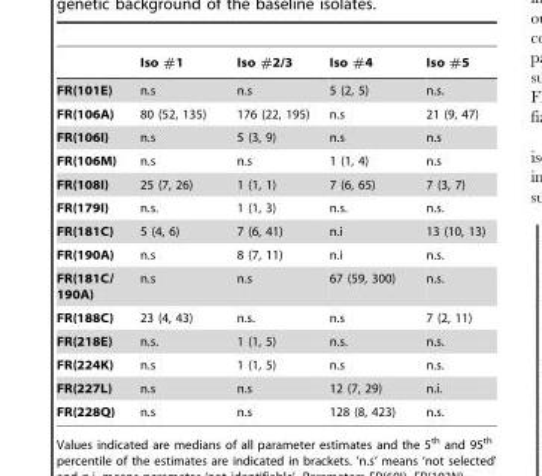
<table><thead><tr><td></td><td>Iso #1</td><td>Iso #2/3</td><td>Iso #4</td><td>Iso #5</td></tr></thead><tbody><tr><td>FR(101E)</td><td>n.s</td><td>n.s</td><td>5 (2, 5)</td><td>n.s.</td></tr><tr><td>FR(106A)</td><td>80 (52, 135)</td><td>176 (22, 195)</td><td>n.s</td><td>21 (9, 47)</td></tr><tr><td>FR(106I)</td><td>n.s</td><td>5 (3, 9)</td><td>n.s</td><td>n.s</td></tr><tr><td>FR(106M)</td><td>n.s</td><td>n.s</td><td>1 (1, 4)</td><td>n.s</td></tr><tr><td>FR(108I)</td><td>25 (7, 26)</td><td>1 (1, 1)</td><td>7 (6, 65)</td><td>7 (3, 7)</td></tr><tr><td>FR(179I)</td><td>n.s.</td><td>1 (1, 3)</td><td>n.s.</td><td>n.s.</td></tr><tr><td>FR(181C)</td><td>5 (4, 6)</td><td>7 (6, 41)</td><td>n.i</td><td>13 (10, 13)</td></tr><tr><td>FR(190A)</td><td>n.s</td><td>8 (7, 11)</td><td>n.i</td><td>n.s.</td></tr><tr><td>FR(181C/ 190A)</td><td>n.s</td><td>n.s</td><td>67 (59, 300)</td><td>n.s.</td></tr><tr><td>FR(188C)</td><td>23 (4, 43)</td><td>n.s.</td><td>n.s</td><td>7 (2, 11)</td></tr><tr><td>FR(218E)</td><td>n.s.</td><td>1 (1, 5)</td><td>n.s.</td><td>n.s.</td></tr><tr><td>FR(224K)</td><td>n.s</td><td>1 (1, 5)</td><td>n.s</td><td>n.s.</td></tr><tr><td>FR(227L)</td><td>n.s</td><td>n.s</td><td>12 (7, 29)</td><td>n.i.</td></tr><tr><td>FR(228Q)</td><td>n.s</td><td>n.s</td><td>128 (8, 423)</td><td>n.s.</td></tr></tbody></table>